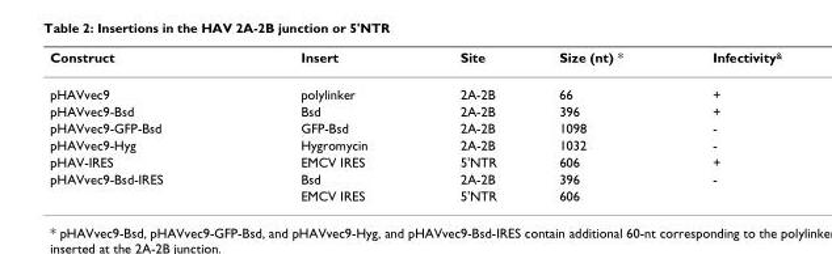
<table><thead><tr><td>Construct</td><td>Insert</td><td>Site</td><td>Size (nt) *</td><td>Infectivity<sup>&amp;</sup></td></tr></thead><tbody><tr><td>pHAVvec9</td><td>polylinker</td><td>2A-2B</td><td>66</td><td>+</td></tr><tr><td>pHAVvec9-Bsd</td><td>Bsd</td><td>2A-2B</td><td>396</td><td>+</td></tr><tr><td>pHAVvec9-GFP-Bsd</td><td>GFP-Bsd</td><td>2A-2B</td><td>1098</td><td>-</td></tr><tr><td>pHAVvec9-Hyg</td><td>Hygromycin</td><td>2A-2B</td><td>1032</td><td>-</td></tr><tr><td>pHAV-IRES</td><td>EMCV IRES</td><td>5&#x27;NTR</td><td>606</td><td>+</td></tr><tr><td rowspan="2">pHAVvec9-Bsd-IRES</td><td>Bsd</td><td>2A-2B</td><td>396</td><td>-</td></tr><tr><td>EMCV IRES</td><td>5&#x27;NTR</td><td>606</td><td></td></tr></tbody></table>